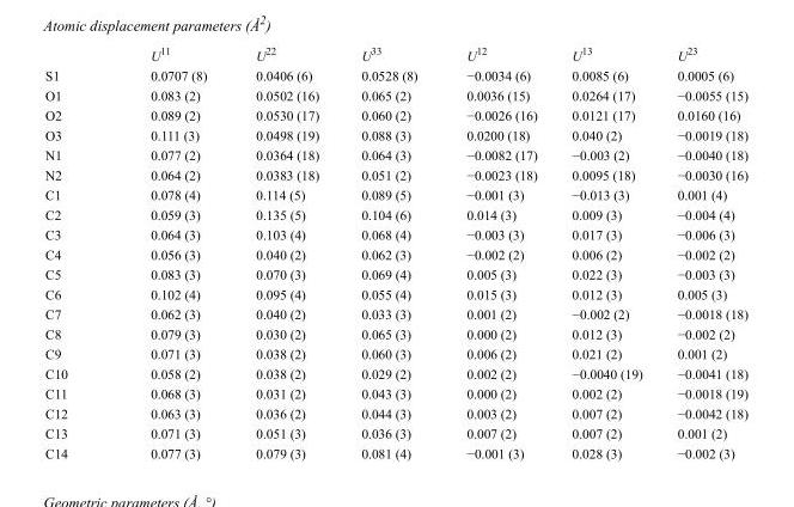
<table><thead><tr><td></td><td>U<sup>11</sup></td><td>U<sup>22</sup></td><td>U<sup>33</sup></td><td>U<sup>12</sup></td><td>U<sup>13</sup></td><td>U<sup>23</sup></td></tr></thead><tbody><tr><td>S1</td><td>0.0707 (8)</td><td>0.0406 (6)</td><td>0.0528 (8)</td><td>−0.0034 (6)</td><td>0.0085 (6)</td><td>0.0005 (6)</td></tr><tr><td>O1</td><td>0.083 (2)</td><td>0.0502 (16)</td><td>0.065 (2)</td><td>0.0036 (15)</td><td>0.0264 (17)</td><td>−0.0055 (15)</td></tr><tr><td>O2</td><td>0.089 (2)</td><td>0.0530 (17)</td><td>0.060 (2)</td><td>−0.0026 (16)</td><td>0.0121 (17)</td><td>0.0160 (16)</td></tr><tr><td>O3</td><td>0.111 (3)</td><td>0.0498 (19)</td><td>0.088 (3)</td><td>0.0200 (18)</td><td>0.040 (2)</td><td>−0.0019 (18)</td></tr><tr><td>N1</td><td>0.077 (2)</td><td>0.0364 (18)</td><td>0.064 (3)</td><td>−0.0082 (17)</td><td>−0.003 (2)</td><td>−0.0040 (18)</td></tr><tr><td>N2</td><td>0.064 (2)</td><td>0.0383 (18)</td><td>0.051 (2)</td><td>−0.0023 (18)</td><td>0.0095 (18)</td><td>−0.0030 (16)</td></tr><tr><td>C1</td><td>0.078 (4)</td><td>0.114 (5)</td><td>0.089 (5)</td><td>−0.001 (3)</td><td>−0.013 (3)</td><td>0.001 (4)</td></tr><tr><td>C2</td><td>0.059 (3)</td><td>0.135 (5)</td><td>0.104 (6)</td><td>0.014 (3)</td><td>0.009 (3)</td><td>−0.004 (4)</td></tr><tr><td>C3</td><td>0.064 (3)</td><td>0.103 (4)</td><td>0.068 (4)</td><td>−0.003 (3)</td><td>0.017 (3)</td><td>−0.006 (3)</td></tr><tr><td>C4</td><td>0.056 (3)</td><td>0.040 (2)</td><td>0.062 (3)</td><td>−0.002 (2)</td><td>0.006 (2)</td><td>−0.002 (2)</td></tr><tr><td>C5</td><td>0.083 (3)</td><td>0.070 (3)</td><td>0.069 (4)</td><td>0.005 (3)</td><td>0.022 (3)</td><td>−0.003 (3)</td></tr><tr><td>C6</td><td>0.102 (4)</td><td>0.095 (4)</td><td>0.055 (4)</td><td>0.015 (3)</td><td>0.012 (3)</td><td>0.005 (3)</td></tr><tr><td>C7</td><td>0.062 (3)</td><td>0.040 (2)</td><td>0.033 (3)</td><td>0.001 (2)</td><td>−0.002 (2)</td><td>−0.0018 (18)</td></tr><tr><td>C8</td><td>0.079 (3)</td><td>0.030 (2)</td><td>0.065 (3)</td><td>0.000 (2)</td><td>0.012 (3)</td><td>−0.002 (2)</td></tr><tr><td>C9</td><td>0.071 (3)</td><td>0.038 (2)</td><td>0.060 (3)</td><td>0.006 (2)</td><td>0.021 (2)</td><td>0.001 (2)</td></tr><tr><td>C10</td><td>0.058 (2)</td><td>0.038 (2)</td><td>0.029 (2)</td><td>0.002 (2)</td><td>−0.0040 (19)</td><td>−0.0041 (18)</td></tr><tr><td>C11</td><td>0.068 (3)</td><td>0.031 (2)</td><td>0.043 (3)</td><td>0.000 (2)</td><td>0.002 (2)</td><td>−0.0018 (19)</td></tr><tr><td>C12</td><td>0.063 (3)</td><td>0.036 (2)</td><td>0.044 (3)</td><td>0.003 (2)</td><td>0.007 (2)</td><td>−0.0042 (18)</td></tr><tr><td>C13</td><td>0.071 (3)</td><td>0.051 (3)</td><td>0.036 (3)</td><td>0.007 (2)</td><td>0.007 (2)</td><td>0.001 (2)</td></tr><tr><td>C14</td><td>0.077 (3)</td><td>0.079 (3)</td><td>0.081 (4)</td><td>−0.001 (3)</td><td>0.028 (3)</td><td>−0.002 (3)</td></tr></tbody></table>